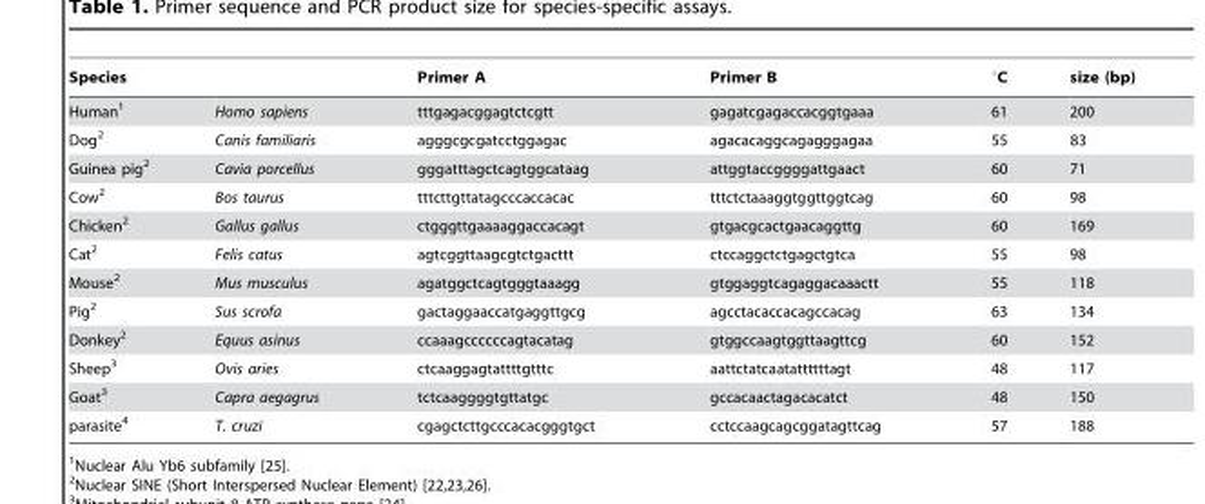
<table><thead><tr><td>Species</td><td></td><td>Primer A</td><td>Primer B</td><td>°C</td><td>size (bp)</td></tr></thead><tbody><tr><td>Human<sup>1</sup></td><td>Homo sapiens</td><td>tttgagacggagtctcgtt</td><td>gagatcgagaccacggtgaaa</td><td>61</td><td>200</td></tr><tr><td>Dog<sup>2</sup></td><td>Canis familiaris</td><td>agggcgcgatcctggagac</td><td>agacacaggcagagggagaa</td><td>55</td><td>83</td></tr><tr><td>Guinea pig<sup>2</sup></td><td>Cavia porcellus</td><td>gggatttagctcagtggcataag</td><td>attggtaccggggattgaact</td><td>60</td><td>71</td></tr><tr><td>Cow<sup>2</sup></td><td>Bos taurus</td><td>tttcttgttatagcccaccacac</td><td>tttctctaaaggtggttggtcag</td><td>60</td><td>98</td></tr><tr><td>Chicken<sup>2</sup></td><td>Gallus gallus</td><td>ctgggttgaaaaggaccacagt</td><td>gtgacgcactgaacaggttg</td><td>60</td><td>169</td></tr><tr><td>Cat<sup>2</sup></td><td>Felis catus</td><td>agtcggttaagcgtctgacttt</td><td>ctccaggctctgagctgtca</td><td>55</td><td>98</td></tr><tr><td>Mouse<sup>2</sup></td><td>Mus musculus</td><td>agatggctcagtgggtaaagg</td><td>gtggaggtcagaggacaaactt</td><td>55</td><td>118</td></tr><tr><td>Pig<sup>2</sup></td><td>Sus scrofa</td><td>gactaggaaccatgaggttgcg</td><td>agcctacaccacagccacag</td><td>63</td><td>134</td></tr><tr><td>Donkey<sup>2</sup></td><td>Equus asinus</td><td>ccaaagccccccagtacatag</td><td>gtggccaagtggttaagttcg</td><td>60</td><td>152</td></tr><tr><td>Sheep<sup>3</sup></td><td>Ovis aries</td><td>ctcaaggagtattttgtttc</td><td>aattctatcaatattttttagt</td><td>48</td><td>117</td></tr><tr><td>Goat<sup>3</sup></td><td>Capra aegagrus</td><td>tctcaaggggtgttatgc</td><td>gccacaactagacacatct</td><td>48</td><td>150</td></tr><tr><td>parasite<sup>4</sup></td><td>T. cruzi</td><td>cgagctcttgcccacacgggtgct</td><td>cctccaagcagcggatagttcag</td><td>57</td><td>188</td></tr></tbody></table>